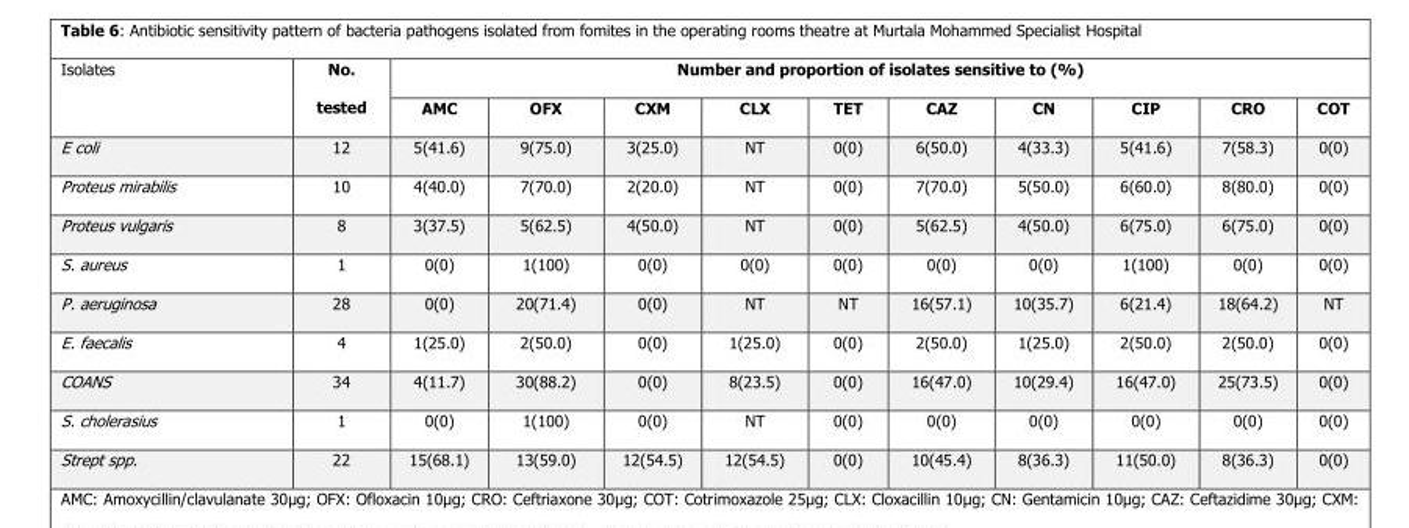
<table><thead><tr><td rowspan="2">Isolates</td><td rowspan="2">No. tested</td><td colspan="10">Number and proportion of isolates sensitive to (%)</td></tr><tr><td>AMC</td><td>OFX</td><td>CXM</td><td>CLX</td><td>TET</td><td>CAZ</td><td>CN</td><td>CIP</td><td>CRO</td><td>COT</td></tr></thead><tbody><tr><td>E coli</td><td>12</td><td>5(41.6)</td><td>9(75.0)</td><td>3(25.0)</td><td>NT</td><td>0(0)</td><td>6(50.0)</td><td>4(33.3)</td><td>5(41.6)</td><td>7(58.3)</td><td>0(0)</td></tr><tr><td>Proteus mirabilis</td><td>10</td><td>4(40.0)</td><td>7(70.0)</td><td>2(20.0)</td><td>NT</td><td>0(0)</td><td>7(70.0)</td><td>5(50.0)</td><td>6(60.0)</td><td>8(80.0)</td><td>0(0)</td></tr><tr><td>Proteus vulgaris</td><td>8</td><td>3(37.5)</td><td>5(62.5)</td><td>4(50.0)</td><td>NT</td><td>0(0)</td><td>5(62.5)</td><td>4(50.0)</td><td>6(75.0)</td><td>6(75.0)</td><td>0(0)</td></tr><tr><td>S. aureus</td><td>1</td><td>0(0)</td><td>1(100)</td><td>0(0)</td><td>0(0)</td><td>0(0)</td><td>0(0)</td><td>0(0)</td><td>1(100)</td><td>0(0)</td><td>0(0)</td></tr><tr><td>P. aeruginosa</td><td>28</td><td>0(0)</td><td>20(71.4)</td><td>0(0)</td><td>NT</td><td>NT</td><td>16(57.1)</td><td>10(35.7)</td><td>6(21.4)</td><td>18(64.2)</td><td>NT</td></tr><tr><td>E. faecalis</td><td>4</td><td>1(25.0)</td><td>2(50.0)</td><td>0(0)</td><td>1(25.0)</td><td>0(0)</td><td>2(50.0)</td><td>1(25.0)</td><td>2(50.0)</td><td>2(50.0)</td><td>0(0)</td></tr><tr><td>COANS</td><td>34</td><td>4(11.7)</td><td>30(88.2)</td><td>0(0)</td><td>8(23.5)</td><td>0(0)</td><td>16(47.0)</td><td>10(29.4)</td><td>16(47.0)</td><td>25(73.5)</td><td>0(0)</td></tr><tr><td>S. cholerasius</td><td>1</td><td>0(0)</td><td>1(100)</td><td>0(0)</td><td>NT</td><td>0(0)</td><td>0(0)</td><td>0(0)</td><td>0(0)</td><td>0(0)</td><td>0(0)</td></tr><tr><td>Strept spp.</td><td>22</td><td>15(68.1)</td><td>13(59.0)</td><td>12(54.5)</td><td>12(54.5)</td><td>0(0)</td><td>10(45.4)</td><td>8(36.3)</td><td>11(50.0)</td><td>8(36.3)</td><td>0(0)</td></tr></tbody></table>